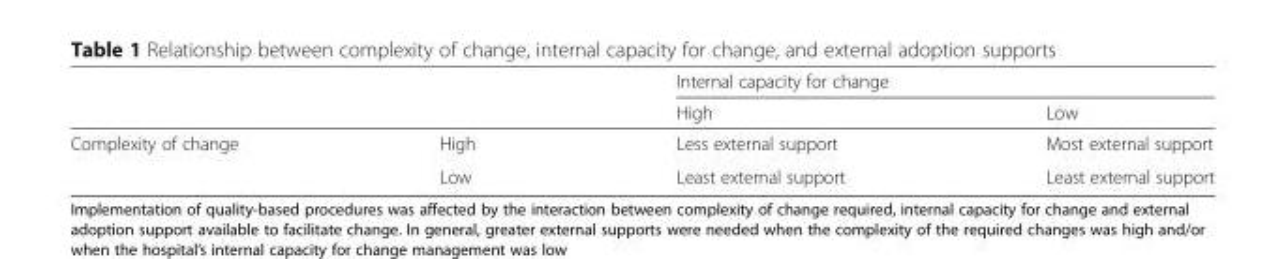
<table><thead><tr><td rowspan="2"></td><td rowspan="2"></td><td colspan="2">Internal capacity for change</td></tr><tr><td>High</td><td>Low</td></tr></thead><tbody><tr><td rowspan="2">Complexity of change</td><td>High</td><td>Less external support</td><td>Most external support</td></tr><tr><td>Low</td><td>Least external support</td><td>Least external support</td></tr></tbody></table>